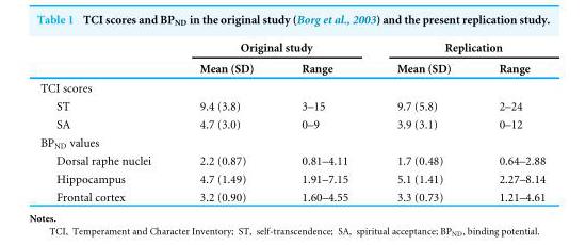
<table><thead><tr><td rowspan="2"></td><td colspan="2">Original study</td><td colspan="2">Replication</td></tr><tr><td>Mean (SD)</td><td>Range</td><td>Mean (SD)</td><td>Range</td></tr></thead><tbody><tr><td colspan="5">TCI scores</td></tr><tr><td>ST</td><td>9.4 (3.8)</td><td>3–15</td><td>9.7 (5.8)</td><td>2–24</td></tr><tr><td>SA</td><td>4.7 (3.0)</td><td>0–9</td><td>3.9 (3.1)</td><td>0–12</td></tr><tr><td colspan="5">BP<sub>ND</sub> values</td></tr><tr><td>Dorsal raphe nuclei</td><td>2.2 (0.87)</td><td>0.81–4.11</td><td>1.7 (0.48)</td><td>0.64–2.88</td></tr><tr><td>Hippocampus</td><td>4.7 (1.49)</td><td>1.91–7.15</td><td>5.1 (1.41)</td><td>2.27–8.14</td></tr><tr><td>Frontal cortex</td><td>3.2 (0.90)</td><td>1.60–4.55</td><td>3.3 (0.73)</td><td>1.21–4.61</td></tr></tbody></table>